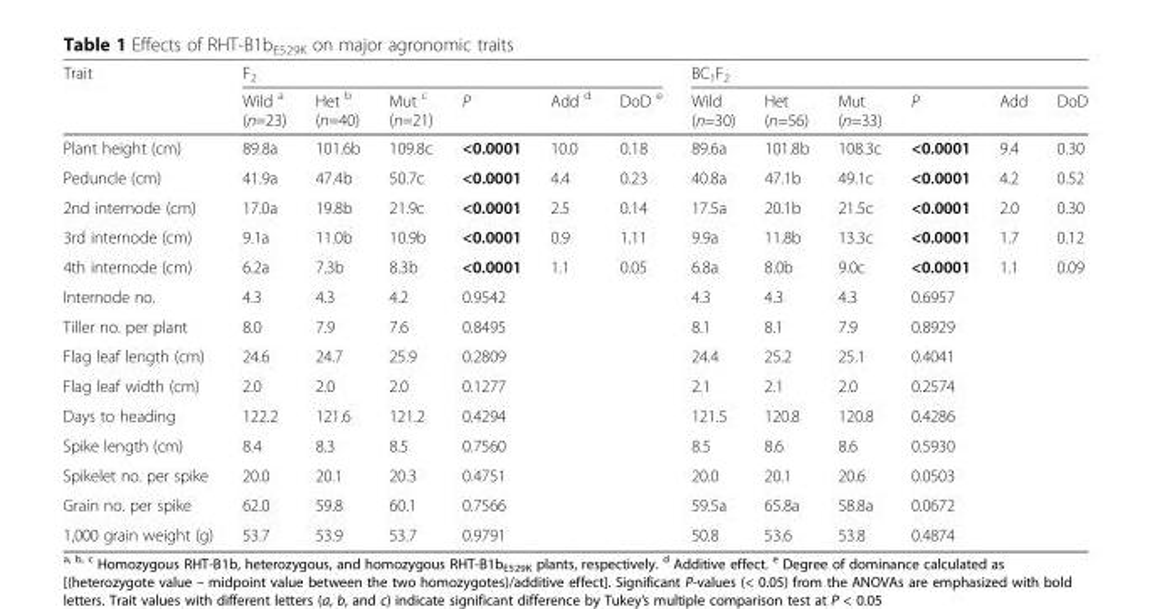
<table><thead><tr><td rowspan="2">Trait</td><td colspan="6">F<sub>2</sub></td><td colspan="6">BC<sub>1</sub>F<sub>2</sub></td></tr><tr><td>Wild <sup>a</sup> (n=23)</td><td>Het <sup>b</sup> (n=40)</td><td>Mut <sup>c</sup> (n=21)</td><td>P</td><td>Add <sup>d</sup></td><td>DoD <sup>e</sup></td><td>Wild (n=30)</td><td>Het (n=56)</td><td>Mut (n=33)</td><td>P</td><td>Add</td><td>DoD</td></tr></thead><tbody><tr><td>Plant height (cm)</td><td>89.8a</td><td>101.6b</td><td>109.8c</td><td>&lt;0.0001</td><td>10.0</td><td>0.18</td><td>89.6a</td><td>101.8b</td><td>108.3c</td><td>&lt;0.0001</td><td>9.4</td><td>0.30</td></tr><tr><td>Peduncle (cm)</td><td>41.9a</td><td>47.4b</td><td>50.7c</td><td>&lt;0.0001</td><td>4.4</td><td>0.23</td><td>40.8a</td><td>47.1b</td><td>49.1c</td><td>&lt;0.0001</td><td>4.2</td><td>0.52</td></tr><tr><td>2nd internode (cm)</td><td>17.0a</td><td>19.8b</td><td>21.9c</td><td>&lt;0.0001</td><td>2.5</td><td>0.14</td><td>17.5a</td><td>20.1b</td><td>21.5c</td><td>&lt;0.0001</td><td>2.0</td><td>0.30</td></tr><tr><td>3rd internode (cm)</td><td>9.1a</td><td>11.0b</td><td>10.9b</td><td>&lt;0.0001</td><td>0.9</td><td>1.11</td><td>9.9a</td><td>11.8b</td><td>13.3c</td><td>&lt;0.0001</td><td>1.7</td><td>0.12</td></tr><tr><td>4th internode (cm)</td><td>6.2a</td><td>7.3b</td><td>8.3b</td><td>&lt;0.0001</td><td>1.1</td><td>0.05</td><td>6.8a</td><td>8.0b</td><td>9.0c</td><td>&lt;0.0001</td><td>1.1</td><td>0.09</td></tr><tr><td>Internode no.</td><td>4.3</td><td>4.3</td><td>4.2</td><td>0.9542</td><td></td><td></td><td>4.3</td><td>4.3</td><td>4.3</td><td>0.6957</td><td></td><td></td></tr><tr><td>Tiller no. per plant</td><td>8.0</td><td>7.9</td><td>7.6</td><td>0.8495</td><td></td><td></td><td>8.1</td><td>8.1</td><td>7.9</td><td>0.8929</td><td></td><td></td></tr><tr><td>Flag leaf length (cm)</td><td>24.6</td><td>24.7</td><td>25.9</td><td>0.2809</td><td></td><td></td><td>24.4</td><td>25.2</td><td>25.1</td><td>0.4041</td><td></td><td></td></tr><tr><td>Flag leaf width (cm)</td><td>2.0</td><td>2.0</td><td>2.0</td><td>0.1277</td><td></td><td></td><td>2.1</td><td>2.1</td><td>2.0</td><td>0.2574</td><td></td><td></td></tr><tr><td>Days to heading</td><td>122.2</td><td>121.6</td><td>121.2</td><td>0.4294</td><td></td><td></td><td>121.5</td><td>120.8</td><td>120.8</td><td>0.4286</td><td></td><td></td></tr><tr><td>Spike length (cm)</td><td>8.4</td><td>8.3</td><td>8.5</td><td>0.7560</td><td></td><td></td><td>8.5</td><td>8.6</td><td>8.6</td><td>0.5930</td><td></td><td></td></tr><tr><td>Spikelet no. per spike</td><td>20.0</td><td>20.1</td><td>20.3</td><td>0.4751</td><td></td><td></td><td>20.0</td><td>20.1</td><td>20.6</td><td>0.0503</td><td></td><td></td></tr><tr><td>Grain no. per spike</td><td>62.0</td><td>59.8</td><td>60.1</td><td>0.7566</td><td></td><td></td><td>59.5a</td><td>65.8a</td><td>58.8a</td><td>0.0672</td><td></td><td></td></tr><tr><td>1,000 grain weight (g)</td><td>53.7</td><td>53.9</td><td>53.7</td><td>0.9791</td><td></td><td></td><td>50.8</td><td>53.6</td><td>53.8</td><td>0.4874</td><td></td><td></td></tr></tbody></table>